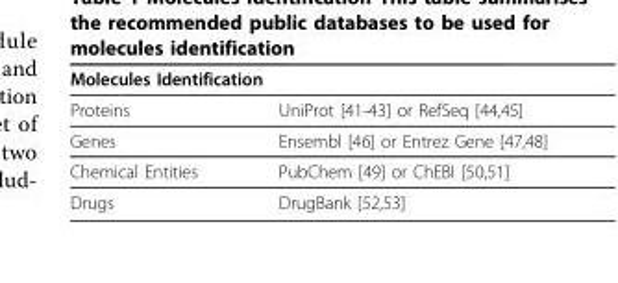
<table><thead><tr><td colspan="2">Molecules Identification</td></tr><tr><td>Proteins</td><td>UniProt [41-43] or RefSeq [44,45]</td></tr></thead><tbody><tr><td>Genes</td><td>Ensembl [46] or Entrez Gene [47,48]</td></tr><tr><td>Chemical Entities</td><td>PubChem [49] or ChEBI [50,51]</td></tr><tr><td>Drugs</td><td>DrugBank [52,53]</td></tr></tbody></table>